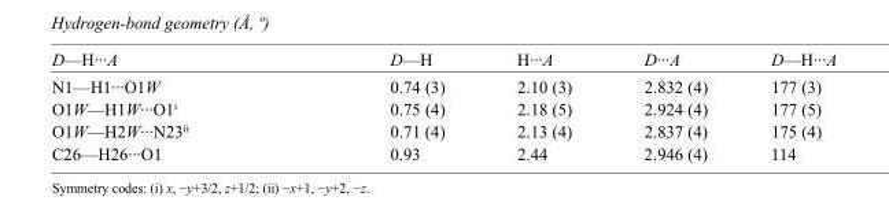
<table><tbody><tr><td>D—H···A</td><td>D—H</td><td>H···A</td><td>D···A</td><td>D—H···A</td></tr><tr><td>N1—H1···O1W</td><td>0.74 (3)</td><td>2.10 (3)</td><td>2.832 (4)</td><td>177 (3)</td></tr><tr><td>O1W—H1W···O1<sup>i</sup></td><td>0.75 (4)</td><td>2.18 (5)</td><td>2.924 (4)</td><td>177 (5)</td></tr><tr><td>O1W—H2W···N23<sup>ii</sup></td><td>0.71 (4)</td><td>2.13 (4)</td><td>2.837 (4)</td><td>175 (4)</td></tr><tr><td>C26—H26···O1</td><td>0.93</td><td>2.44</td><td>2.946 (4)</td><td>114</td></tr></tbody></table>